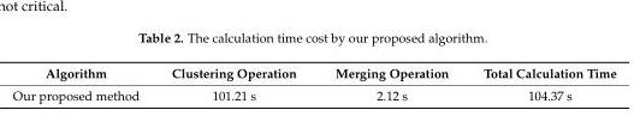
<table><thead><tr><td>Algorithm</td><td>Clustering Operation</td><td>Merging Operation</td><td>Total Calculation Time</td></tr></thead><tbody><tr><td>Our proposed method</td><td>101.21 s</td><td>2.12 s</td><td>104.37 s</td></tr></tbody></table>